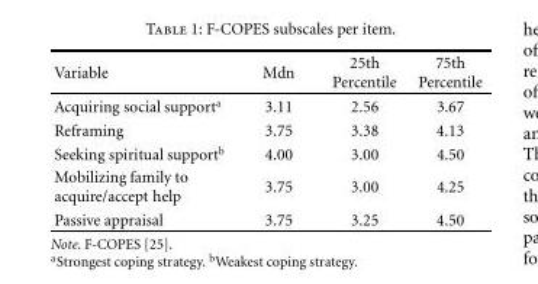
<table><thead><tr><td>Variable</td><td>Mdn</td><td>25th Percentile</td><td>75th Percentile</td></tr></thead><tbody><tr><td>Acquiring social support<sup>a</sup></td><td>3.11</td><td>2.56</td><td>3.67</td></tr><tr><td>Reframing</td><td>3.75</td><td>3.38</td><td>4.13</td></tr><tr><td>Seeking spiritual support<sup>b</sup></td><td>4.00</td><td>3.00</td><td>4.50</td></tr><tr><td>Mobilizing family to acquire/accept help</td><td>3.75</td><td>3.00</td><td>4.25</td></tr><tr><td>Passive appraisal</td><td>3.75</td><td>3.25</td><td>4.50</td></tr></tbody></table>